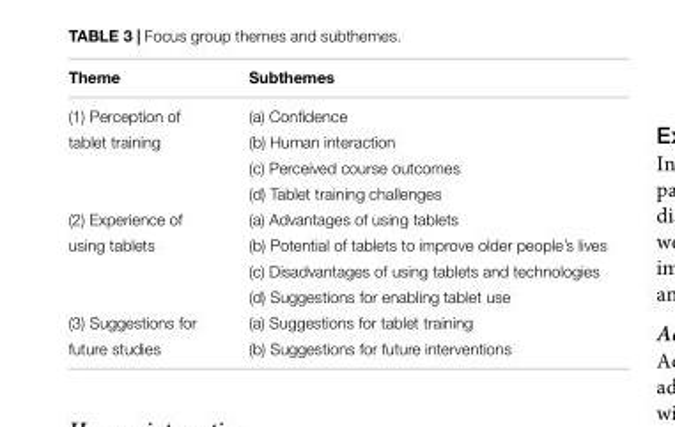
<table><thead><tr><td>Theme</td><td>Subthemes</td></tr></thead><tbody><tr><td>(1) Perception of</td><td>(a) Confidence</td></tr><tr><td rowspan="3">tablet training</td><td>(b) Human interaction</td></tr><tr><td>(c) Perceived course outcomes</td></tr><tr><td>(d) Tablet training challenges</td></tr><tr><td>(2) Experience of</td><td>(a) Advantages of using tablets</td></tr><tr><td rowspan="3">using tablets</td><td>(b) Potential of tablets to improve older people’s lives</td></tr><tr><td>(c) Disadvantages of using tablets and technologies</td></tr><tr><td>(d) Suggestions for enabling tablet use</td></tr><tr><td>(3) Suggestions for</td><td>(a) Suggestions for tablet training</td></tr><tr><td>future studies</td><td>(b) Suggestions for future interventions</td></tr></tbody></table>